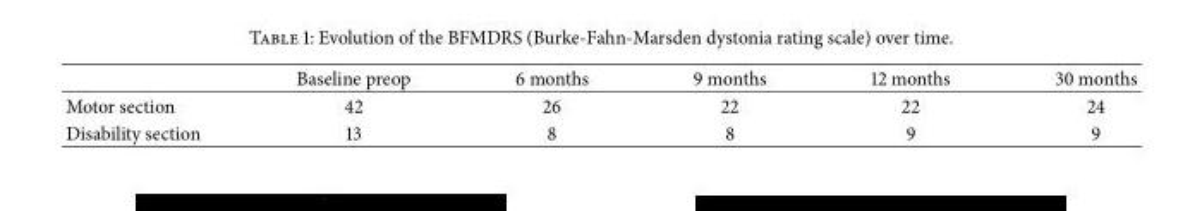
<table><thead><tr><td></td><td>Baseline preop</td><td>6 months</td><td>9 months</td><td>12 months</td><td>30 months</td></tr></thead><tbody><tr><td>Motor section</td><td>42</td><td>26</td><td>22</td><td>22</td><td>24</td></tr><tr><td>Disability section</td><td>13</td><td>8</td><td>8</td><td>9</td><td>9</td></tr></tbody></table>